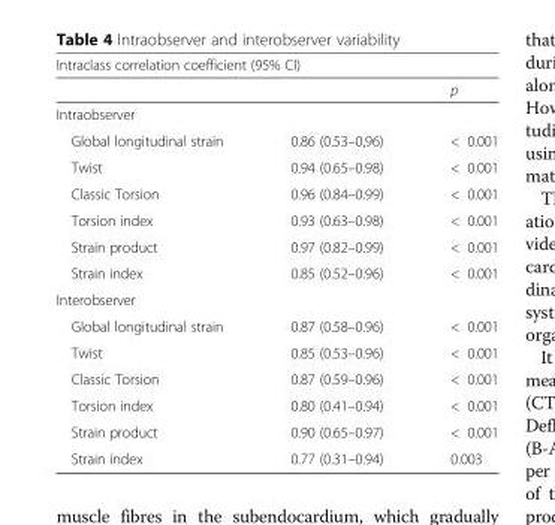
<table><thead><tr><td colspan="3">Intraclass correlation coefficient (95% CI)</td></tr><tr><td></td><td></td><td>p</td></tr></thead><tbody><tr><td colspan="3">Intraobserver</td></tr><tr><td>Global longitudinal strain</td><td>0.86 (0.53–0,96)</td><td>&lt; 0.001</td></tr><tr><td>Twist</td><td>0.94 (0.65–0.98)</td><td>&lt; 0.001</td></tr><tr><td>Classic Torsion</td><td>0.96 (0.84–0.99)</td><td>&lt; 0.001</td></tr><tr><td>Torsion index</td><td>0.93 (0.63–0.98)</td><td>&lt; 0.001</td></tr><tr><td>Strain product</td><td>0.97 (0.82–0.99)</td><td>&lt; 0.001</td></tr><tr><td>Strain index</td><td>0.85 (0.52–0.96)</td><td>&lt; 0.001</td></tr><tr><td colspan="3">Interobserver</td></tr><tr><td>Global longitudinal strain</td><td>0.87 (0.58–0.96)</td><td>&lt; 0.001</td></tr><tr><td>Twist</td><td>0.85 (0.53–0.96)</td><td>&lt; 0.001</td></tr><tr><td>Classic Torsion</td><td>0.87 (0.59–0.96)</td><td>&lt; 0.001</td></tr><tr><td>Torsion index</td><td>0.80 (0.41–0.94)</td><td>&lt; 0.001</td></tr><tr><td>Strain product</td><td>0.90 (0.65–0.97)</td><td>&lt; 0.001</td></tr><tr><td>Strain index</td><td>0.77 (0.31–0.94)</td><td>0.003</td></tr></tbody></table>